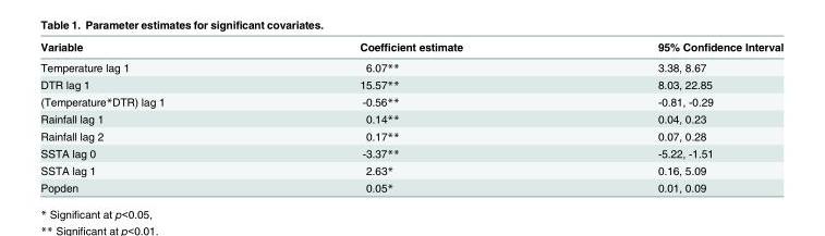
<table><thead><tr><td>Variable</td><td>Coefficient estimate</td><td>95% Confidence Interval</td></tr></thead><tbody><tr><td>Temperature lag 1</td><td>6.07**</td><td>3.38, 8.67</td></tr><tr><td>DTR lag 1</td><td>15.57**</td><td>8.03, 22.85</td></tr><tr><td>(Temperature*DTR) lag 1</td><td>-0.56**</td><td>-0.81, -0.29</td></tr><tr><td>Rainfall lag 1</td><td>0.14**</td><td>0.04, 0.23</td></tr><tr><td>Rainfall lag 2</td><td>0.17**</td><td>0.07, 0.28</td></tr><tr><td>SSTA lag 0</td><td>-3.37**</td><td>-5.22, -1.51</td></tr><tr><td>SSTA lag 1</td><td>2.63*</td><td>0.16, 5.09</td></tr><tr><td>Popden</td><td>0.05*</td><td>0.01, 0.09</td></tr></tbody></table>